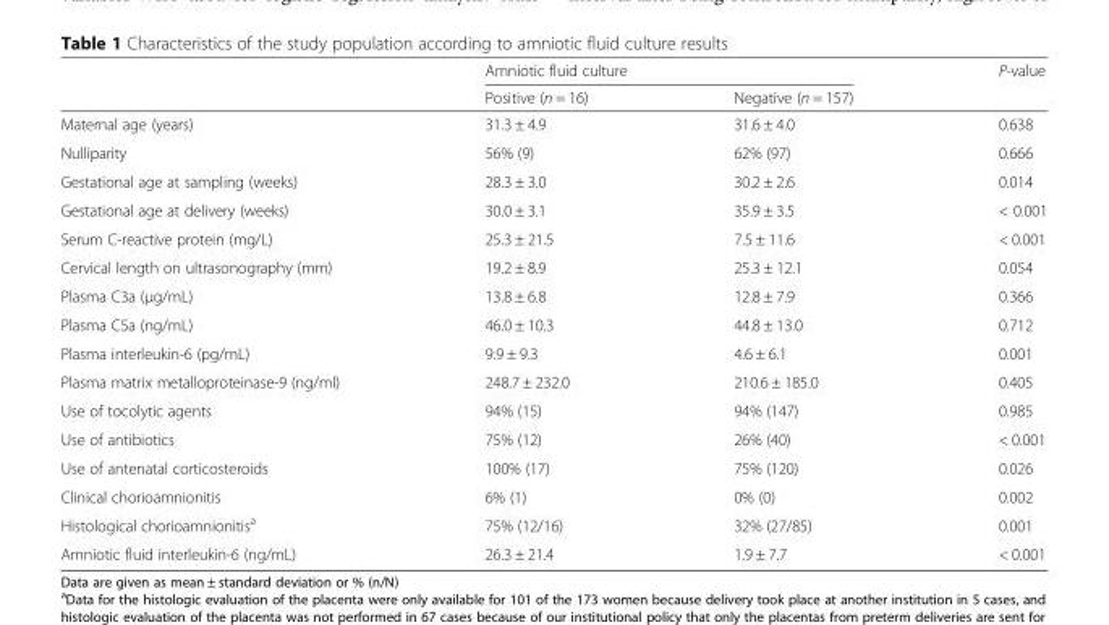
<table><thead><tr><td rowspan="2"></td><td colspan="2">Amniotic fluid culture</td><td rowspan="2">P-value</td></tr><tr><td>Positive (n = 16)</td><td>Negative (n = 157)</td></tr></thead><tbody><tr><td>Maternal age (years)</td><td>31.3 ± 4.9</td><td>31.6 ± 4.0</td><td>0.638</td></tr><tr><td>Nulliparity</td><td>56% (9)</td><td>62% (97)</td><td>0.666</td></tr><tr><td>Gestational age at sampling (weeks)</td><td>28.3 ± 3.0</td><td>30.2 ± 2.6</td><td>0.014</td></tr><tr><td>Gestational age at delivery (weeks)</td><td>30.0 ± 3.1</td><td>35.9 ± 3.5</td><td>&lt; 0.001</td></tr><tr><td>Serum C-reactive protein (mg/L)</td><td>25.3 ± 21.5</td><td>7.5 ± 11.6</td><td>&lt; 0.001</td></tr><tr><td>Cervical length on ultrasonography (mm)</td><td>19.2 ± 8.9</td><td>25.3 ± 12.1</td><td>0.054</td></tr><tr><td>Plasma C3a (μg/mL)</td><td>13.8 ± 6.8</td><td>12.8 ± 7.9</td><td>0.366</td></tr><tr><td>Plasma C5a (ng/mL)</td><td>46.0 ± 10.3</td><td>44.8 ± 13.0</td><td>0.712</td></tr><tr><td>Plasma interleukin-6 (pg/mL)</td><td>9.9 ± 9.3</td><td>4.6 ± 6.1</td><td>0.001</td></tr><tr><td>Plasma matrix metalloproteinase-9 (ng/ml)</td><td>248.7 ± 232.0</td><td>210.6 ± 185.0</td><td>0.405</td></tr><tr><td>Use of tocolytic agents</td><td>94% (15)</td><td>94% (147)</td><td>0.985</td></tr><tr><td>Use of antibiotics</td><td>75% (12)</td><td>26% (40)</td><td>&lt; 0.001</td></tr><tr><td>Use of antenatal corticosteroids</td><td>100% (17)</td><td>75% (120)</td><td>0.026</td></tr><tr><td>Clinical chorioamnionitis</td><td>6% (1)</td><td>0% (0)</td><td>0.002</td></tr><tr><td>Histological chorioamnionitis<sup>a</sup></td><td>75% (12/16)</td><td>32% (27/85)</td><td>0.001</td></tr><tr><td>Amniotic fluid interleukin-6 (ng/mL)</td><td>26.3 ± 21.4</td><td>1.9 ± 7.7</td><td>&lt; 0.001</td></tr></tbody></table>